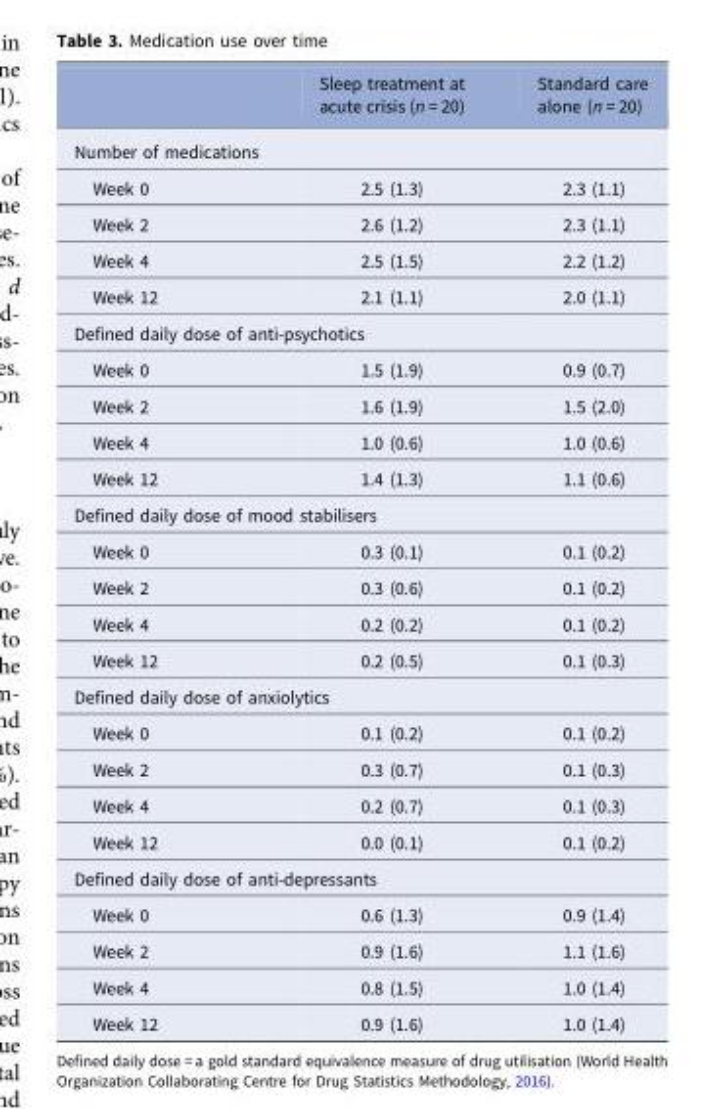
<table><thead><tr><td></td><td>Sleep treatment at acute crisis (n = 20)</td><td>Standard care alone (n = 20)</td></tr></thead><tbody><tr><td colspan="3">Number of medications</td></tr><tr><td>Week 0</td><td>2.5 (1.3)</td><td>2.3 (1.1)</td></tr><tr><td>Week 2</td><td>2.6 (1.2)</td><td>2.3 (1.1)</td></tr><tr><td>Week 4</td><td>2.5 (1.5)</td><td>2.2 (1.2)</td></tr><tr><td>Week 12</td><td>2.1 (1.1)</td><td>2.0 (1.1)</td></tr><tr><td colspan="3">Defined daily dose of anti-psychotics</td></tr><tr><td>Week 0</td><td>1.5 (1.9)</td><td>0.9 (0.7)</td></tr><tr><td>Week 2</td><td>1.6 (1.9)</td><td>1.5 (2.0)</td></tr><tr><td>Week 4</td><td>1.0 (0.6)</td><td>1.0 (0.6)</td></tr><tr><td>Week 12</td><td>1.4 (1.3)</td><td>1.1 (0.6)</td></tr><tr><td colspan="3">Defined daily dose of mood stabilisers</td></tr><tr><td>Week 0</td><td>0.3 (0.1)</td><td>0.1 (0.2)</td></tr><tr><td>Week 2</td><td>0.3 (0.6)</td><td>0.1 (0.2)</td></tr><tr><td>Week 4</td><td>0.2 (0.2)</td><td>0.1 (0.2)</td></tr><tr><td>Week 12</td><td>0.2 (0.5)</td><td>0.1 (0.3)</td></tr><tr><td colspan="3">Defined daily dose of anxiolytics</td></tr><tr><td>Week 0</td><td>0.1 (0.2)</td><td>0.1 (0.2)</td></tr><tr><td>Week 2</td><td>0.3 (0.7)</td><td>0.1 (0.3)</td></tr><tr><td>Week 4</td><td>0.2 (0.7)</td><td>0.1 (0.3)</td></tr><tr><td>Week 12</td><td>0.0 (0.1)</td><td>0.1 (0.2)</td></tr><tr><td colspan="3">Defined daily dose of anti-depressants</td></tr><tr><td>Week 0</td><td>0.6 (1.3)</td><td>0.9 (1.4)</td></tr><tr><td>Week 2</td><td>0.9 (1.6)</td><td>1.1 (1.6)</td></tr><tr><td>Week 4</td><td>0.8 (1.5)</td><td>1.0 (1.4)</td></tr><tr><td>Week 12</td><td>0.9 (1.6)</td><td>1.0 (1.4)</td></tr></tbody></table>